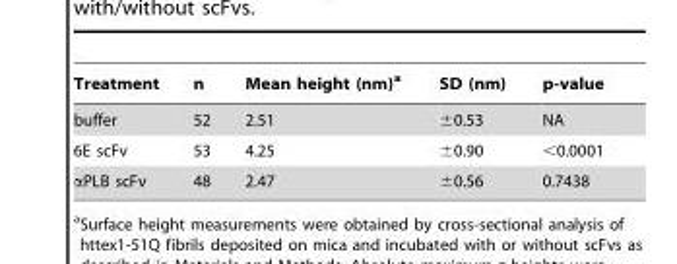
<table><thead><tr><td>Treatment</td><td>n</td><td>Mean height (nm)<sup>a</sup></td><td>SD (nm)</td><td>p-value</td></tr></thead><tbody><tr><td>buffer</td><td>52</td><td>2.51</td><td>±0.53</td><td>NA</td></tr><tr><td>6E scFv</td><td>53</td><td>4.25</td><td>±0.90</td><td>&lt;0.0001</td></tr><tr><td>αPLB scFv</td><td>48</td><td>2.47</td><td>±0.56</td><td>0.7438</td></tr></tbody></table>